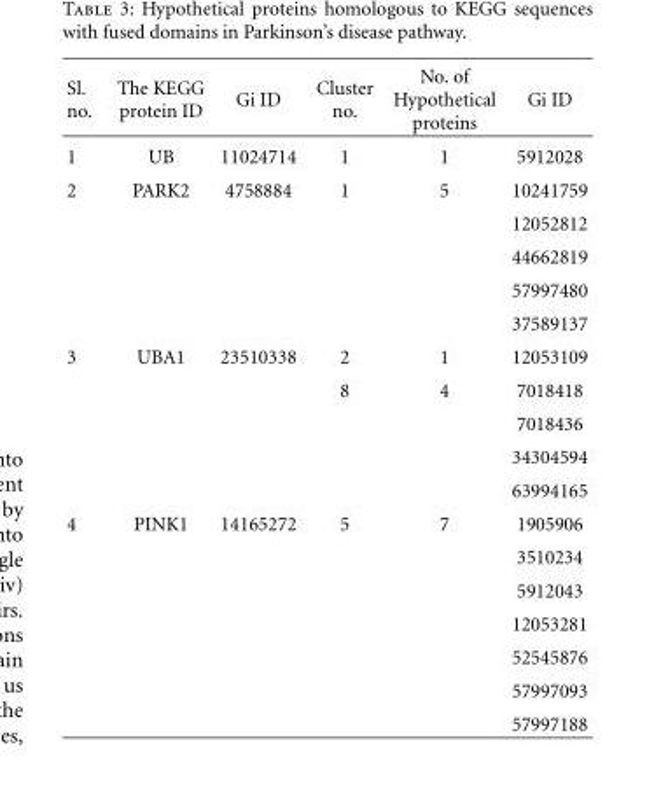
<table><thead><tr><td>Sl. no.</td><td>The KEGG protein ID</td><td>Gi ID</td><td>Cluster no.</td><td>No. of Hypothetical proteins</td><td>Gi ID</td></tr></thead><tbody><tr><td>1</td><td>UB</td><td>11024714</td><td>1</td><td>1</td><td>5912028</td></tr><tr><td rowspan="5">2</td><td>PARK2</td><td>4758884</td><td>1</td><td>5</td><td>10241759</td></tr><tr><td></td><td></td><td></td><td></td><td>12052812</td></tr><tr><td></td><td></td><td></td><td></td><td>44662819</td></tr><tr><td></td><td></td><td></td><td></td><td>57997480</td></tr><tr><td></td><td></td><td></td><td></td><td>37589137</td></tr><tr><td rowspan="5">3</td><td>UBA1</td><td>23510338</td><td>2</td><td>1</td><td>12053109</td></tr><tr><td></td><td></td><td>8</td><td>4</td><td>7018418</td></tr><tr><td></td><td></td><td></td><td></td><td>7018436</td></tr><tr><td></td><td></td><td></td><td></td><td>34304594</td></tr><tr><td></td><td></td><td></td><td></td><td>63994165</td></tr><tr><td rowspan="7">4</td><td>PINK1</td><td>14165272</td><td>5</td><td>7</td><td>1905906</td></tr><tr><td></td><td></td><td></td><td></td><td>3510234</td></tr><tr><td></td><td></td><td></td><td></td><td>5912043</td></tr><tr><td></td><td></td><td></td><td></td><td>12053281</td></tr><tr><td></td><td></td><td></td><td></td><td>52545876</td></tr><tr><td></td><td></td><td></td><td></td><td>57997093</td></tr><tr><td></td><td></td><td></td><td></td><td>57997188</td></tr></tbody></table>